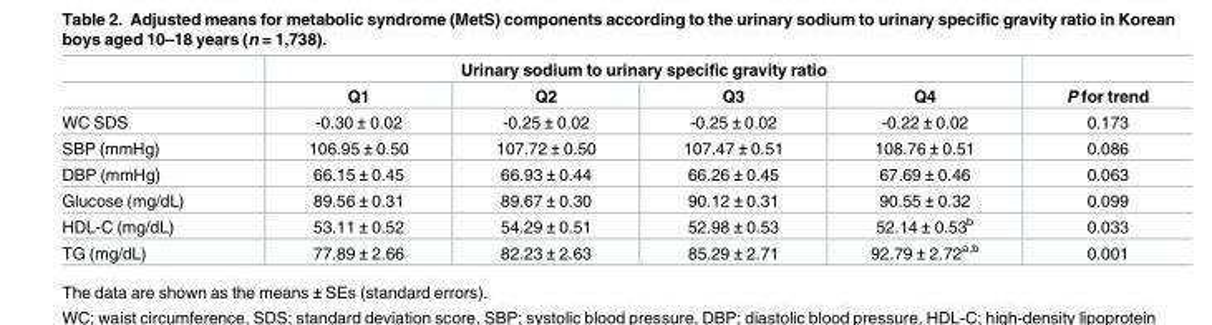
<table><thead><tr><td rowspan="2"></td><td colspan="4">Urinary sodium to urinary specific gravity ratio</td><td rowspan="2">P for trend</td></tr><tr><td>Q1</td><td>Q2</td><td>Q3</td><td>Q4</td></tr></thead><tbody><tr><td>WC SDS</td><td>-0.30 ± 0.02</td><td>-0.25 ± 0.02</td><td>-0.25 ± 0.02</td><td>-0.22 ± 0.02</td><td>0.173</td></tr><tr><td>SBP (mmHg)</td><td>106.95 ± 0.50</td><td>107.72 ± 0.50</td><td>107.47 ± 0.51</td><td>108.76 ± 0.51</td><td>0.086</td></tr><tr><td>DBP (mmHg)</td><td>66.15 ± 0.45</td><td>66.93 ± 0.44</td><td>66.26 ± 0.45</td><td>67.69 ± 0.46</td><td>0.063</td></tr><tr><td>Glucose (mg/dL)</td><td>89.56 ± 0.31</td><td>89.67 ± 0.30</td><td>90.12 ± 0.31</td><td>90.55 ± 0.32</td><td>0.099</td></tr><tr><td>HDL-C (mg/dL)</td><td>53.11 ± 0.52</td><td>54.29 ± 0.51</td><td>52.98 ± 0.53</td><td>52.14 ± 0.53<sup>b</sup></td><td>0.033</td></tr><tr><td>TG (mg/dL)</td><td>77.89 ± 2.66</td><td>82.23 ± 2.63</td><td>85.29 ± 2.71</td><td>92.79 ± 2.72<sup>a,b</sup></td><td>0.001</td></tr></tbody></table>